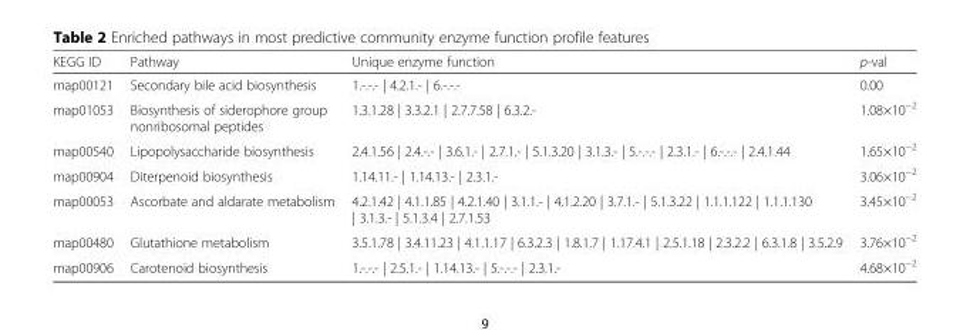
<table><thead><tr><td>KEGG ID</td><td>Pathway</td><td>Unique enzyme function</td><td>p-val</td></tr></thead><tbody><tr><td>map00121</td><td>Secondary bile acid biosynthesis</td><td>1.-.-.- | 4.2.1.- | 6.-.-.-</td><td>0.00</td></tr><tr><td>map01053</td><td>Biosynthesis of siderophore group nonribosomal peptides</td><td>1.3.1.28 | 3.3.2.1 | 2.7.7.58 | 6.3.2.-</td><td>1.08×10<sup>−2</sup></td></tr><tr><td>map00540</td><td>Lipopolysaccharide biosynthesis</td><td>2.4.1.56 | 2.4.-.- | 3.6.1.- | 2.7.1.- | 5.1.3.20 | 3.1.3.- | 5.-.-.- | 2.3.1.- | 6.-.-.- | 2.4.1.44</td><td>1.65×10<sup>−2</sup></td></tr><tr><td>map00904</td><td>Diterpenoid biosynthesis</td><td>1.14.11.- | 1.14.13.- | 2.3.1.-</td><td>3.06×10<sup>−2</sup></td></tr><tr><td>map00053</td><td>Ascorbate and aldarate metabolism</td><td>4.2.1.42 | 4.1.1.85 | 4.2.1.40 | 3.1.1.- | 4.1.2.20 | 3.7.1.- | 5.1.3.22 | 1.1.1.122 | 1.1.1.130 | 3.1.3.- | 5.1.3.4 | 2.7.1.53</td><td>3.45×10<sup>−2</sup></td></tr><tr><td>map00480</td><td>Glutathione metabolism</td><td>3.5.1.78 | 3.4.11.23 | 4.1.1.17 | 6.3.2.3 | 1.8.1.7 | 1.17.4.1 | 2.5.1.18 | 2.3.2.2 | 6.3.1.8 | 3.5.2.9</td><td>3.76×10<sup>−2</sup></td></tr><tr><td>map00906</td><td>Carotenoid biosynthesis</td><td>1.-.-.- | 2.5.1.- | 1.14.13.- | 5.-.-.- | 2.3.1.-</td><td>4.68×10<sup>−2</sup></td></tr></tbody></table>